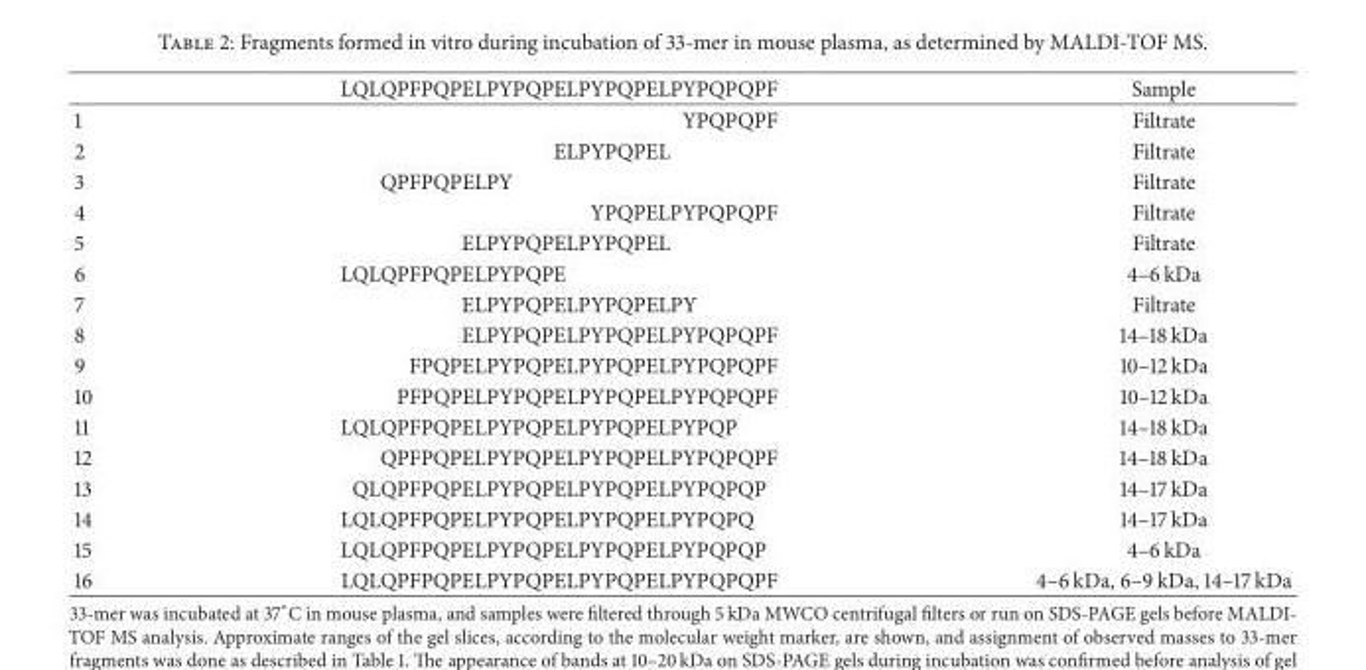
<table><thead><tr><td></td><td>LQLQPFPQPELPYPQPELPYPQPELPYPQPQPF</td><td>Sample</td></tr></thead><tbody><tr><td>1</td><td>YPQPQPF</td><td>Filtrate</td></tr><tr><td>2</td><td>ELPYPQPEL</td><td>Filtrate</td></tr><tr><td>3</td><td>QPFPQPELPY</td><td>Filtrate</td></tr><tr><td>4</td><td>YPQPELPYPQPQPF</td><td>Filtrate</td></tr><tr><td>5</td><td>ELPYPQPELPYPQPEL</td><td>Filtrate</td></tr><tr><td>6</td><td>LQLQPFPQPELPYPQPE</td><td>4–6 kDa</td></tr><tr><td>7</td><td>ELPYPQPELPYPQPELPY</td><td>Filtrate</td></tr><tr><td>8</td><td>ELPYPQPELPYPQPELPYPQPQPF</td><td>14–18 kDa</td></tr><tr><td>9</td><td>FPQPELPYPQPELPYPQPELPYPQPQPF</td><td>10–12 kDa</td></tr><tr><td>10</td><td>PFPQPELPYPQPELPYPQPELPYPQPQPF</td><td>10–12 kDa</td></tr><tr><td>11</td><td>LQLQPFPQPELPYPQPELPYPQPELPYPQP</td><td>14–18 kDa</td></tr><tr><td>12</td><td>QPFPQPELPYPQPELPYPQPELPYPQPQPF</td><td>14–18 kDa</td></tr><tr><td>13</td><td>QLQPFPQPELPYPQPELPYPQPELPYPQPQP</td><td>14–17 kDa</td></tr><tr><td>14</td><td>LQLQPFPQPELPYPQPELPYPQPELPYPQPQ</td><td>14–17 kDa</td></tr><tr><td>15</td><td>LQLQPFPQPELPYPQPELPYPQPELPYPQPQP</td><td>4–6 kDa</td></tr><tr><td>16</td><td>LQLQPFPQPELPYPQPELPYPQPELPYPQPQPF</td><td>4–6 kDa, 6–9 kDa, 14–17 kDa</td></tr></tbody></table>